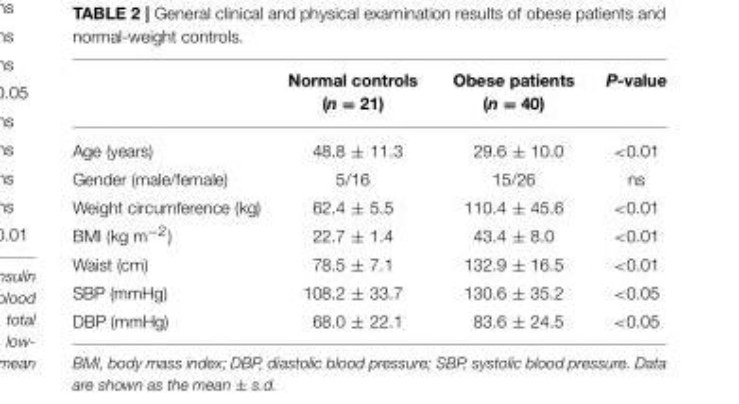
<table><thead><tr><td></td><td>Normal controls (n = 21)</td><td>Obese patients (n = 40)</td><td>P-value</td></tr></thead><tbody><tr><td>Age (years)</td><td>48.8 ± 11.3</td><td>29.6 ± 10.0</td><td>&lt;0.01</td></tr><tr><td>Gender (male/female)</td><td>5/16</td><td>15/26</td><td>ns</td></tr><tr><td>Weight circumference (kg)</td><td>62.4 ± 5.5</td><td>110.4 ± 45.6</td><td>&lt;0.01</td></tr><tr><td>BMI (kg m<sup>−2</sup>)</td><td>22.7 ± 1.4</td><td>43.4 ± 8.0</td><td>&lt;0.01</td></tr><tr><td>Waist (cm)</td><td>78.5 ± 7.1</td><td>132.9 ± 16.5</td><td>&lt;0.01</td></tr><tr><td>SBP (mmHg)</td><td>108.2 ± 33.7</td><td>130.6 ± 35.2</td><td>&lt;0.05</td></tr><tr><td>DBP (mmHg)</td><td>68.0 ± 22.1</td><td>83.6 ± 24.5</td><td>&lt;0.05</td></tr></tbody></table>